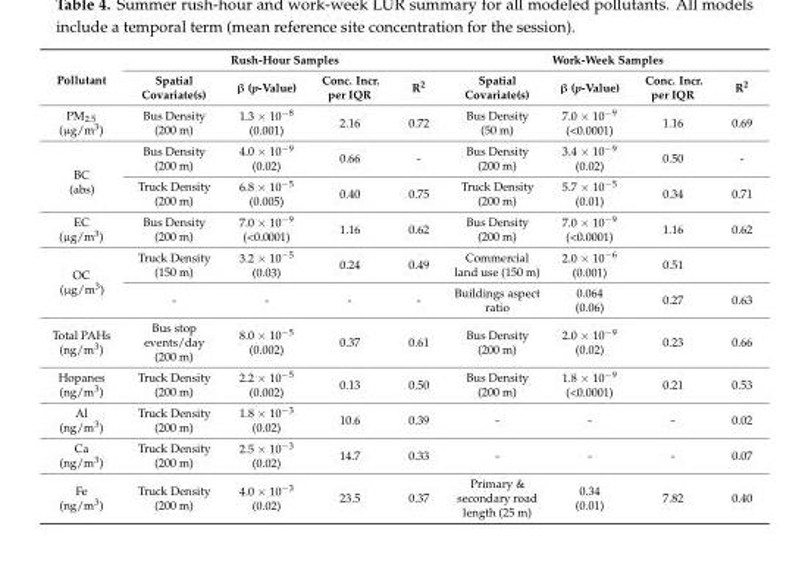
<table><thead><tr><td rowspan="2">Pollutant</td><td colspan="4">Rush-Hour Samples</td><td colspan="4">Work-Week Samples</td></tr><tr><td>Spatial Covariate(s)</td><td>β (p-Value)</td><td>Conc. Incr. per IQR</td><td>R<sup>2</sup></td><td>Spatial Covariate(s)</td><td>β (p-Value)</td><td>Conc. Incr. per IQR</td><td>R<sup>2</sup></td></tr></thead><tbody><tr><td>PM<sub>2.5</sub> (µg/m<sup>3</sup>)</td><td>Bus Density (200 m)</td><td>1.3 × 10<sup>−8</sup> (0.001)</td><td>2.16</td><td>0.72</td><td>Bus Density (50 m)</td><td>7.0 × 10<sup>−9</sup> (&lt;0.0001)</td><td>1.16</td><td>0.69</td></tr><tr><td rowspan="2">BC (abs)</td><td>Bus Density (200 m)</td><td>4.0 × 10<sup>−9</sup> (0.02)</td><td>0.66</td><td>-</td><td>Bus Density (200 m)</td><td>3.4 × 10<sup>−9</sup> (0.02)</td><td>0.50</td><td>-</td></tr><tr><td>Truck Density (200 m)</td><td>6.8 × 10<sup>−5</sup> (0.005)</td><td>0.40</td><td>0.75</td><td>Truck Density (200 m)</td><td>5.7 × 10<sup>−5</sup> (0.01)</td><td>0.34</td><td>0.71</td></tr><tr><td>EC (µg/m<sup>3</sup>)</td><td>Bus Density (200 m)</td><td>7.0 × 10<sup>−9</sup> (&lt;0.0001)</td><td>1.16</td><td>0.62</td><td>Bus Density (200 m)</td><td>7.0 × 10<sup>−9</sup> (&lt;0.0001)</td><td>1.16</td><td>0.62</td></tr><tr><td rowspan="2">OC (µg/m<sup>3</sup>)</td><td>Truck Density (150 m)</td><td>3.2 × 10<sup>−5</sup> (0.03)</td><td>0.24</td><td>0.49</td><td>Commercial land use (150 m)</td><td>2.0 × 10<sup>−6</sup> (0.001)</td><td>0.51</td><td></td></tr><tr><td>-</td><td>-</td><td>-</td><td>-</td><td>Buildings aspect ratio</td><td>0.064 (0.06)</td><td>0.27</td><td>0.63</td></tr><tr><td>Total PAHs (ng/m<sup>3</sup>)</td><td>Bus stop events/day (200 m)</td><td>8.0 × 10<sup>−5</sup> (0.002)</td><td>0.37</td><td>0.61</td><td>Bus Density (200 m)</td><td>2.0 × 10<sup>−9</sup> (0.02)</td><td>0.23</td><td>0.66</td></tr><tr><td>Hopanes (ng/m<sup>3</sup>)</td><td>Truck Density (200 m)</td><td>2.2 × 10<sup>−5</sup> (0.002)</td><td>0.13</td><td>0.50</td><td>Bus Density (200 m)</td><td>1.8 × 10<sup>−9</sup> (&lt;0.0001)</td><td>0.21</td><td>0.53</td></tr><tr><td>Al (ng/m<sup>3</sup>)</td><td>Truck Density (200 m)</td><td>1.8 × 10<sup>−3</sup> (0.02)</td><td>10.6</td><td>0.39</td><td>-</td><td>-</td><td>-</td><td>0.02</td></tr><tr><td>Ca (ng/m<sup>3</sup>)</td><td>Truck Density (200 m)</td><td>2.5 × 10<sup>−3</sup> (0.02)</td><td>14.7</td><td>0.33</td><td>-</td><td>-</td><td>-</td><td>0.07</td></tr><tr><td>Fe (ng/m<sup>3</sup>)</td><td>Truck Density (200 m)</td><td>4.0 × 10<sup>−3</sup> (0.02)</td><td>23.5</td><td>0.37</td><td>Primary &amp; secondary road length (25 m)</td><td>0.34 (0.01)</td><td>7.82</td><td>0.40</td></tr></tbody></table>